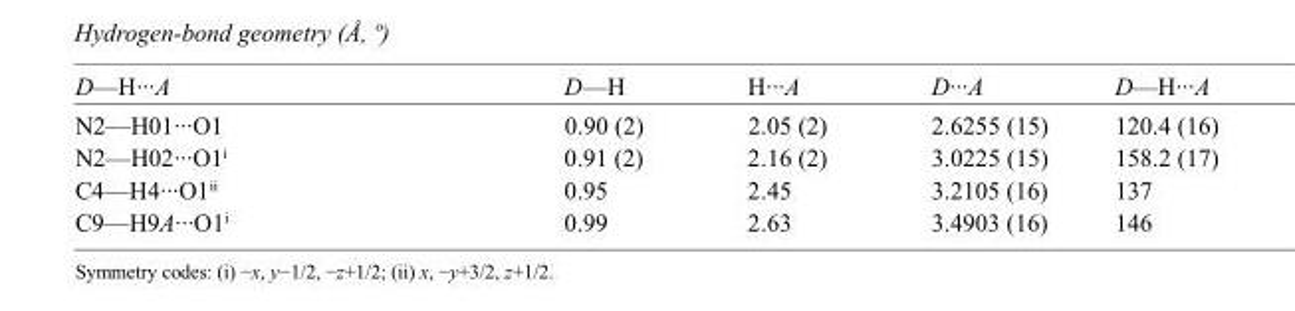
<table><tbody><tr><td>D—H···A</td><td>D—H</td><td>H···A</td><td>D···A</td><td>D—H···A</td></tr><tr><td>N2—H01···O1</td><td>0.90 (2)</td><td>2.05 (2)</td><td>2.6255 (15)</td><td>120.4 (16)</td></tr><tr><td>N2—H02···O1<sup>i</sup></td><td>0.91 (2)</td><td>2.16 (2)</td><td>3.0225 (15)</td><td>158.2 (17)</td></tr><tr><td>C4—H4···O1<sup>ii</sup></td><td>0.95</td><td>2.45</td><td>3.2105 (16)</td><td>137</td></tr><tr><td>C9—H9A···O1<sup>i</sup></td><td>0.99</td><td>2.63</td><td>3.4903 (16)</td><td>146</td></tr></tbody></table>